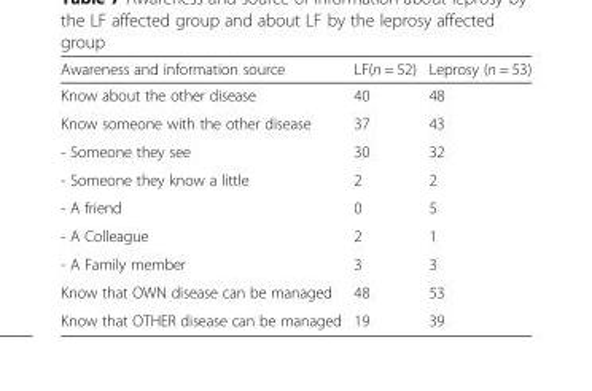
<table><thead><tr><td>Awareness and information source</td><td>LF(n = 52)</td><td>Leprosy (n = 53)</td></tr></thead><tbody><tr><td>Know about the other disease</td><td>40</td><td>48</td></tr><tr><td>Know someone with the other disease</td><td>37</td><td>43</td></tr><tr><td>- Someone they see</td><td>30</td><td>32</td></tr><tr><td>- Someone they know a little</td><td>2</td><td>2</td></tr><tr><td>- A friend</td><td>0</td><td>5</td></tr><tr><td>- A Colleague</td><td>2</td><td>1</td></tr><tr><td>- A Family member</td><td>3</td><td>3</td></tr><tr><td>Know that OWN disease can be managed</td><td>48</td><td>53</td></tr><tr><td>Know that OTHER disease can be managed</td><td>19</td><td>39</td></tr></tbody></table>